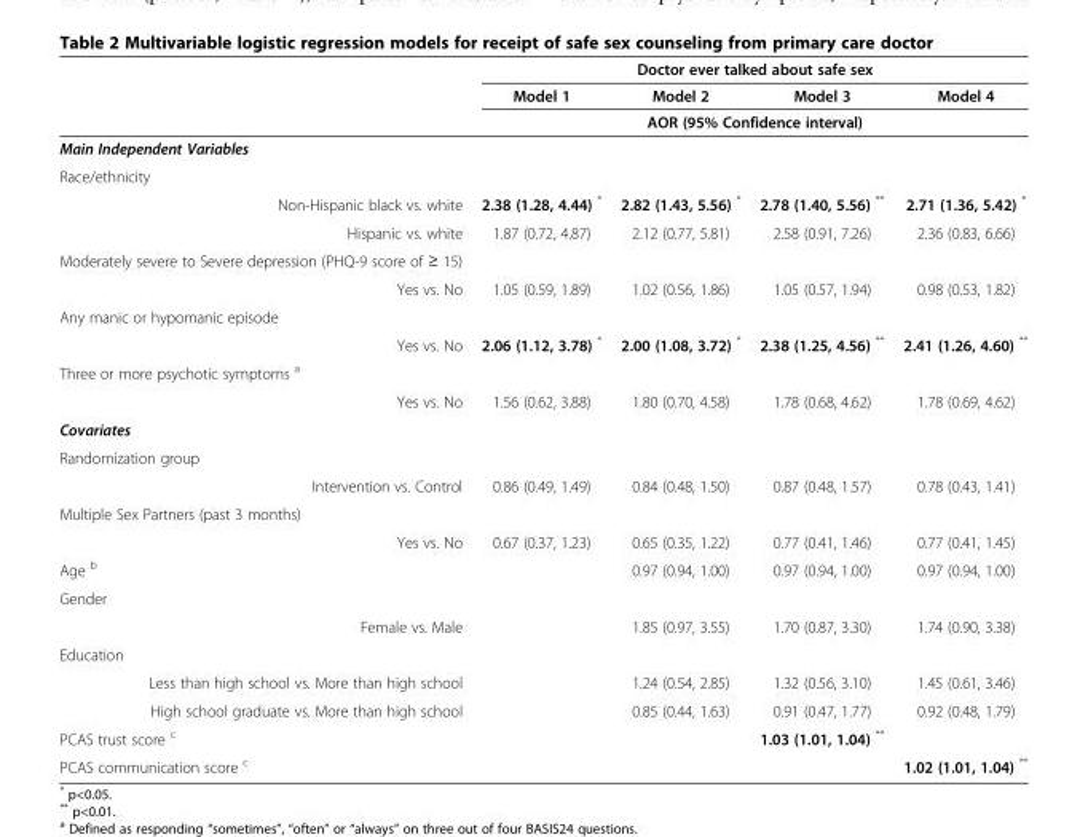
<table><thead><tr><td rowspan="3"></td><td colspan="4">Doctor ever talked about safe sex</td></tr><tr><td>Model 1</td><td>Model 2</td><td>Model 3</td><td>Model 4</td></tr><tr><td colspan="4">AOR (95% Confidence interval)</td></tr></thead><tbody><tr><td colspan="5">Main Independent Variables</td></tr><tr><td colspan="5">Race/ethnicity</td></tr><tr><td>Non-Hispanic black vs. white</td><td>2.38 (1.28, 4.44) *</td><td>2.82 (1.43, 5.56) *</td><td>2.78 (1.40, 5.56) **</td><td>2.71 (1.36, 5.42) *</td></tr><tr><td>Hispanic vs. white</td><td>1.87 (0.72, 4.87)</td><td>2.12 (0.77, 5.81)</td><td>2.58 (0.91, 7.26)</td><td>2.36 (0.83, 6.66)</td></tr><tr><td colspan="5">Moderately severe to Severe depression (PHQ-9 score of ≥ 15)</td></tr><tr><td>Yes vs. No</td><td>1.05 (0.59, 1.89)</td><td>1.02 (0.56, 1.86)</td><td>1.05 (0.57, 1.94)</td><td>0.98 (0.53, 1.82)</td></tr><tr><td colspan="5">Any manic or hypomanic episode</td></tr><tr><td>Yes vs. No</td><td>2.06 (1.12, 3.78) *</td><td>2.00 (1.08, 3.72) *</td><td>2.38 (1.25, 4.56) **</td><td>2.41 (1.26, 4.60) **</td></tr><tr><td colspan="5">Three or more psychotic symptoms <sup>a</sup></td></tr><tr><td>Yes vs. No</td><td>1.56 (0.62, 3.88)</td><td>1.80 (0.70, 4.58)</td><td>1.78 (0.68, 4.62)</td><td>1.78 (0.69, 4.62)</td></tr><tr><td colspan="5">Covariates</td></tr><tr><td colspan="5">Randomization group</td></tr><tr><td>Intervention vs. Control</td><td>0.86 (0.49, 1.49)</td><td>0.84 (0.48, 1.50)</td><td>0.87 (0.48, 1.57)</td><td>0.78 (0.43, 1.41)</td></tr><tr><td colspan="5">Multiple Sex Partners (past 3 months)</td></tr><tr><td>Yes vs. No</td><td>0.67 (0.37, 1.23)</td><td>0.65 (0.35, 1.22)</td><td>0.77 (0.41, 1.46)</td><td>0.77 (0.41, 1.45)</td></tr><tr><td>Age <sup>b</sup></td><td></td><td>0.97 (0.94, 1.00)</td><td>0.97 (0.94, 1.00)</td><td>0.97 (0.94, 1.00)</td></tr><tr><td colspan="5">Gender</td></tr><tr><td>Female vs. Male</td><td></td><td>1.85 (0.97, 3.55)</td><td>1.70 (0.87, 3.30)</td><td>1.74 (0.90, 3.38)</td></tr><tr><td colspan="5">Education</td></tr><tr><td>Less than high school vs. More than high school</td><td></td><td>1.24 (0.54, 2.85)</td><td>1.32 (0.56, 3.10)</td><td>1.45 (0.61, 3.46)</td></tr><tr><td>High school graduate vs. More than high school</td><td></td><td>0.85 (0.44, 1.63)</td><td>0.91 (0.47, 1.77)</td><td>0.92 (0.48, 1.79)</td></tr><tr><td>PCAS trust score <sup>c</sup></td><td></td><td></td><td>1.03 (1.01, 1.04) **</td><td></td></tr><tr><td>PCAS communication score <sup>c</sup></td><td></td><td></td><td></td><td>1.02 (1.01, 1.04) **</td></tr></tbody></table>